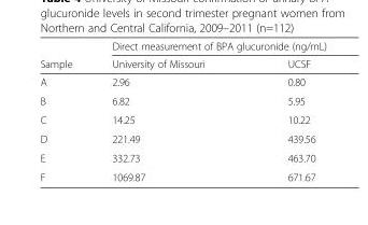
<table><thead><tr><td rowspan="2">Sample</td><td colspan="2">Direct measurement of BPA glucuronide (ng/mL)</td></tr><tr><td>University of Missouri</td><td>UCSF</td></tr></thead><tbody><tr><td>A</td><td>2.96</td><td>0.80</td></tr><tr><td>B</td><td>6.82</td><td>5.95</td></tr><tr><td>C</td><td>14.25</td><td>10.22</td></tr><tr><td>D</td><td>221.49</td><td>439.56</td></tr><tr><td>E</td><td>332.73</td><td>463.70</td></tr><tr><td>F</td><td>1069.87</td><td>671.67</td></tr></tbody></table>